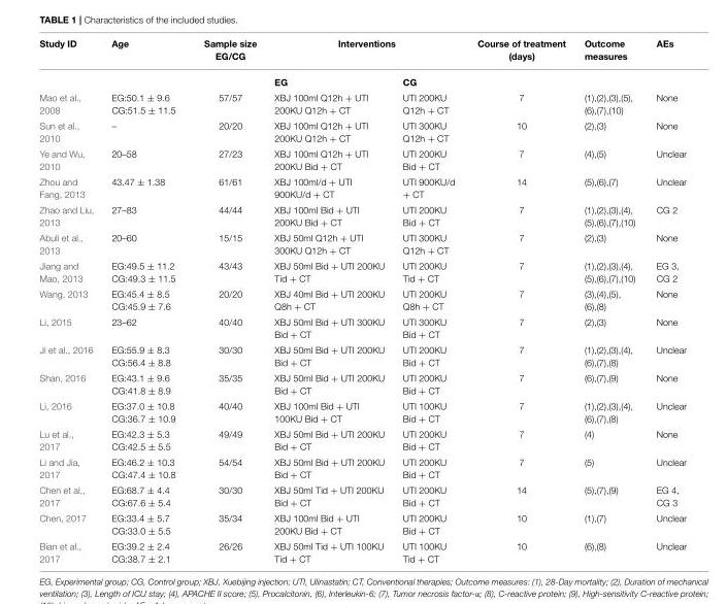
<table><thead><tr><td rowspan="2">Study ID</td><td rowspan="2">Age</td><td rowspan="2">Sample size EG/CG</td><td colspan="2">Interventions</td><td rowspan="2">Course of treatment (days)</td><td rowspan="2">Outcome measures</td><td rowspan="2">AEs</td></tr><tr><td>EG</td><td>CG</td></tr></thead><tbody><tr><td>Mao et al., 2008</td><td>EG:50.1 ± 9.6 CG:51.5 ± 11.5</td><td>57/57</td><td>XBJ 100ml Q12h + UTI 200KU Q12h + CT</td><td>UTI 200KU Q12h + CT</td><td>7</td><td>(1),(2),(3),(5), (6),(7),(10)</td><td>None</td></tr><tr><td>Sun et al., 2010</td><td>–</td><td>20/20</td><td>XBJ 100ml Q12h + UTI 200KU Q12h + CT</td><td>UTI 300KU Q12h + CT</td><td>10</td><td>(2),(3)</td><td>None</td></tr><tr><td>Ye and Wu, 2010</td><td>20–58</td><td>27/23</td><td>XBJ 100ml Q12h + UTI 200KU Bid + CT</td><td>UTI 200KU Bid + CT</td><td>7</td><td>(4),(5)</td><td>Unclear</td></tr><tr><td>Zhou and Fang, 2013</td><td>43.47 ± 1.38</td><td>61/61</td><td>XBJ 100ml/d + UTI 900KU/d + CT</td><td>UTI 900KU/d + CT</td><td>14</td><td>(5),(6),(7)</td><td>Unclear</td></tr><tr><td>Zhao and Liu, 2013</td><td>27–83</td><td>44/44</td><td>XBJ 100ml Bid + UTI 200KU Bid + CT</td><td>UTI 200KU Bid + CT</td><td>7</td><td>(1),(2),(3),(4), (5),(6),(7),(10)</td><td>CG 2</td></tr><tr><td>Abuli et al., 2013</td><td>20–60</td><td>15/15</td><td>XBJ 50ml Q12h + UTI 300KU Q12h + CT</td><td>UTI 300KU Q12h + CT</td><td>7</td><td>(2),(3)</td><td>None</td></tr><tr><td>Jiang and Mao, 2013</td><td>EG:49.5 ± 11.2 CG:49.3 ± 11.5</td><td>43/43</td><td>XBJ 50ml Bid + UTI 200KU Tid + CT</td><td>UTI 200KU Tid + CT</td><td>7</td><td>(1),(2),(3),(4), (5),(6),(7),(10)</td><td>EG 3, CG 2</td></tr><tr><td>Wang, 2013</td><td>EG:45.4 ± 8.5 CG:45.9 ± 7.6</td><td>20/20</td><td>XBJ 40ml Bid + UTI 200KU Q8h + CT</td><td>UTI 200KU Q8h + CT</td><td>7</td><td>(3),(4),(5), (6),(8)</td><td>None</td></tr><tr><td>Li, 2015</td><td>23–62</td><td>40/40</td><td>XBJ 50ml Bid + UTI 300KU Bid + CT</td><td>UTI 300KU Bid + CT</td><td>7</td><td>(2),(3)</td><td>None</td></tr><tr><td>Ji et al., 2016</td><td>EG:55.9 ± 8.3 CG:56.4 ± 8.8</td><td>30/30</td><td>XBJ 50ml Bid + UTI 200KU Bid + CT</td><td>UTI 200KU Bid + CT</td><td>7</td><td>(1),(2),(3),(4), (6),(7),(8)</td><td>Unclear</td></tr><tr><td>Shan, 2016</td><td>EG:43.1 ± 9.6 CG:41.8 ± 8.9</td><td>35/35</td><td>XBJ 50ml Bid + UTI 200KU Bid + CT</td><td>UTI 200KU Bid + CT</td><td>7</td><td>(6),(7),(9)</td><td>None</td></tr><tr><td>Li, 2016</td><td>EG:37.0 ± 10.8 CG:36.7 ± 10.9</td><td>40/40</td><td>XBJ 100ml Bid + UTI 100KU Bid + CT</td><td>UTI 100KU Bid + CT</td><td>7</td><td>(1),(2),(3),(4), (6),(7),(8)</td><td>Unclear</td></tr><tr><td>Lu et al., 2017</td><td>EG:42.3 ± 5.3 CG:42.5 ± 5.5</td><td>49/49</td><td>XBJ 50ml Bid + UTI 200KU Bid + CT</td><td>UTI 200KU Bid + CT</td><td>7</td><td>(4)</td><td>None</td></tr><tr><td>Li and Jia, 2017</td><td>EG:46.2 ± 10.3 CG:47.4 ± 10.8</td><td>54/54</td><td>XBJ 50ml Bid + UTI 200KU Bid + CT</td><td>UTI 200KU Bid + CT</td><td>7</td><td>(5)</td><td>Unclear</td></tr><tr><td>Chen et al., 2017</td><td>EG:68.7 ± 4.4 CG:67.6 ± 5.4</td><td>30/30</td><td>XBJ 50ml Tid + UTI 200KU Bid + CT</td><td>UTI 200KU Bid + CT</td><td>14</td><td>(5),(7),(9)</td><td>EG 4, CG 3</td></tr><tr><td>Chen, 2017</td><td>EG:33.4 ± 5.7 CG:33.0 ± 5.5</td><td>35/34</td><td>XBJ 100ml Bid + UTI 200KU Bid + CT</td><td>UTI 200KU Bid + CT</td><td>10</td><td>(1),(7)</td><td>Unclear</td></tr><tr><td>Bian et al., 2017</td><td>EG:39.2 ± 2.4 CG:38.7 ± 2.1</td><td>26/26</td><td>XBJ 50ml Tid + UTI 100KU Tid + CT</td><td>UTI 100KU Tid + CT</td><td>10</td><td>(6),(8)</td><td>Unclear</td></tr></tbody></table>